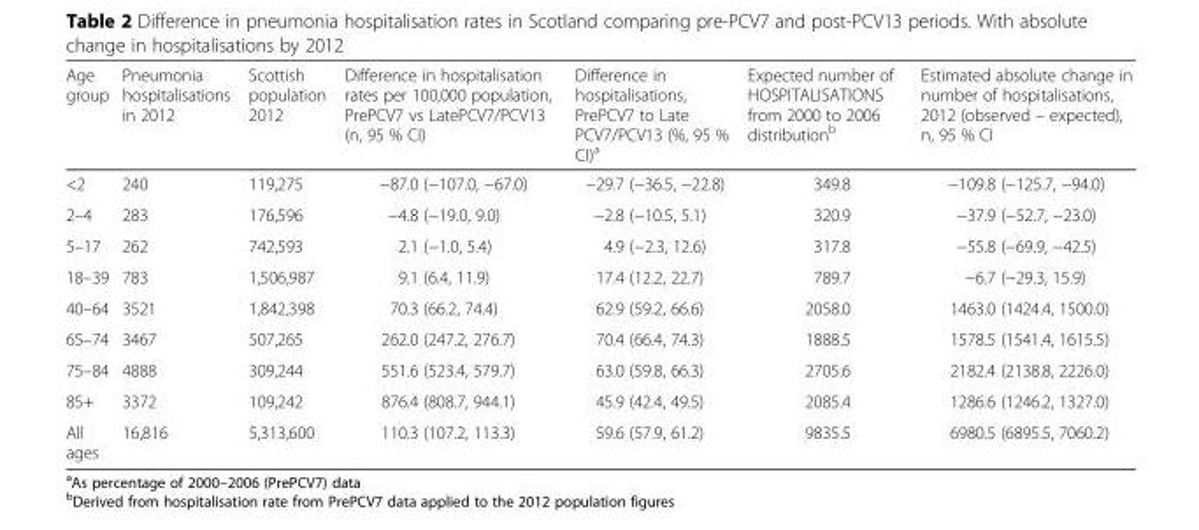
<table><thead><tr><td>Age group</td><td>Pneumonia hospitalisations in 2012</td><td>Scottish population 2012</td><td>Difference in hospitalisation rates per 100,000 population, PrePCV7 vs LatePCV7/PCV13 (n, 95 % CI)</td><td>Difference in hospitalisations, PrePCV7 to Late PCV7/PCV13 (%, 95 % CI)<sup>a</sup></td><td>Expected number of HOSPITALISATIONS from 2000 to 2006 distribution<sup>b</sup></td><td>Estimated absolute change in number of hospitalisations, 2012 (observed – expected), n, 95 % CI</td></tr></thead><tbody><tr><td>&lt;2</td><td>240</td><td>119,275</td><td>−87.0 (−107.0, −67.0)</td><td>−29.7 (−36.5, −22.8)</td><td>349.8</td><td>−109.8 (−125.7, −94.0)</td></tr><tr><td>2–4</td><td>283</td><td>176,596</td><td>−4.8 (−19.0, 9.0)</td><td>−2.8 (−10.5, 5.1)</td><td>320.9</td><td>−37.9 (−52.7, −23.0)</td></tr><tr><td>5–17</td><td>262</td><td>742,593</td><td>2.1 (−1.0, 5.4)</td><td>4.9 (−2.3, 12.6)</td><td>317.8</td><td>−55.8 (−69.9, −42.5)</td></tr><tr><td>18–39</td><td>783</td><td>1,506,987</td><td>9.1 (6.4, 11.9)</td><td>17.4 (12.2, 22.7)</td><td>789.7</td><td>−6.7 (−29.3, 15.9)</td></tr><tr><td>40–64</td><td>3521</td><td>1,842,398</td><td>70.3 (66.2, 74.4)</td><td>62.9 (59.2, 66.6)</td><td>2058.0</td><td>1463.0 (1424.4, 1500.0)</td></tr><tr><td>65–74</td><td>3467</td><td>507,265</td><td>262.0 (247.2, 276.7)</td><td>70.4 (66.4, 74.3)</td><td>1888.5</td><td>1578.5 (1541.4, 1615.5)</td></tr><tr><td>75–84</td><td>4888</td><td>309,244</td><td>551.6 (523.4, 579.7)</td><td>63.0 (59.8, 66.3)</td><td>2705.6</td><td>2182.4 (2138.8, 2226.0)</td></tr><tr><td>85+</td><td>3372</td><td>109,242</td><td>876.4 (808.7, 944.1)</td><td>45.9 (42.4, 49.5)</td><td>2085.4</td><td>1286.6 (1246.2, 1327.0)</td></tr><tr><td>All ages</td><td>16,816</td><td>5,313,600</td><td>110.3 (107.2, 113.3)</td><td>59.6 (57.9, 61.2)</td><td>9835.5</td><td>6980.5 (6895.5, 7060.2)</td></tr></tbody></table>